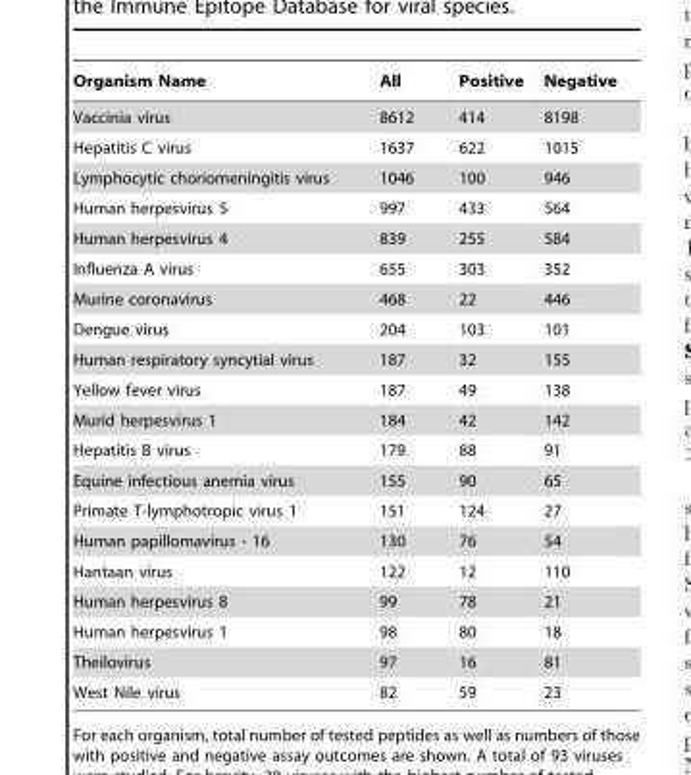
<table><thead><tr><td>Organism Name</td><td>All</td><td>Positive</td><td>Negative</td></tr></thead><tbody><tr><td>Vaccinia virus</td><td>8612</td><td>414</td><td>8198</td></tr><tr><td>Hepatitis C virus</td><td>1637</td><td>622</td><td>1015</td></tr><tr><td>Lymphocytic choriomeningitis virus</td><td>1046</td><td>100</td><td>946</td></tr><tr><td>Human herpesvirus 5</td><td>997</td><td>433</td><td>564</td></tr><tr><td>Human herpesvirus 4</td><td>839</td><td>255</td><td>584</td></tr><tr><td>Influenza A virus</td><td>655</td><td>303</td><td>352</td></tr><tr><td>Murine coronavirus</td><td>468</td><td>22</td><td>446</td></tr><tr><td>Dengue virus</td><td>204</td><td>103</td><td>101</td></tr><tr><td>Human respiratory syncytial virus</td><td>187</td><td>32</td><td>155</td></tr><tr><td>Yellow fever virus</td><td>187</td><td>49</td><td>138</td></tr><tr><td>Murid herpesvirus 1</td><td>184</td><td>42</td><td>142</td></tr><tr><td>Hepatitis B virus</td><td>179</td><td>88</td><td>91</td></tr><tr><td>Equine infectious anemia virus</td><td>155</td><td>90</td><td>65</td></tr><tr><td>Primate T-lymphotropic virus 1</td><td>151</td><td>124</td><td>27</td></tr><tr><td>Human papillomavirus - 16</td><td>130</td><td>76</td><td>54</td></tr><tr><td>Hantaan virus</td><td>122</td><td>12</td><td>110</td></tr><tr><td>Human herpesvirus 8</td><td>99</td><td>78</td><td>21</td></tr><tr><td>Human herpesvirus 1</td><td>98</td><td>80</td><td>18</td></tr><tr><td>Theilovirus</td><td>97</td><td>16</td><td>81</td></tr><tr><td>West Nile virus</td><td>82</td><td>59</td><td>23</td></tr></tbody></table>